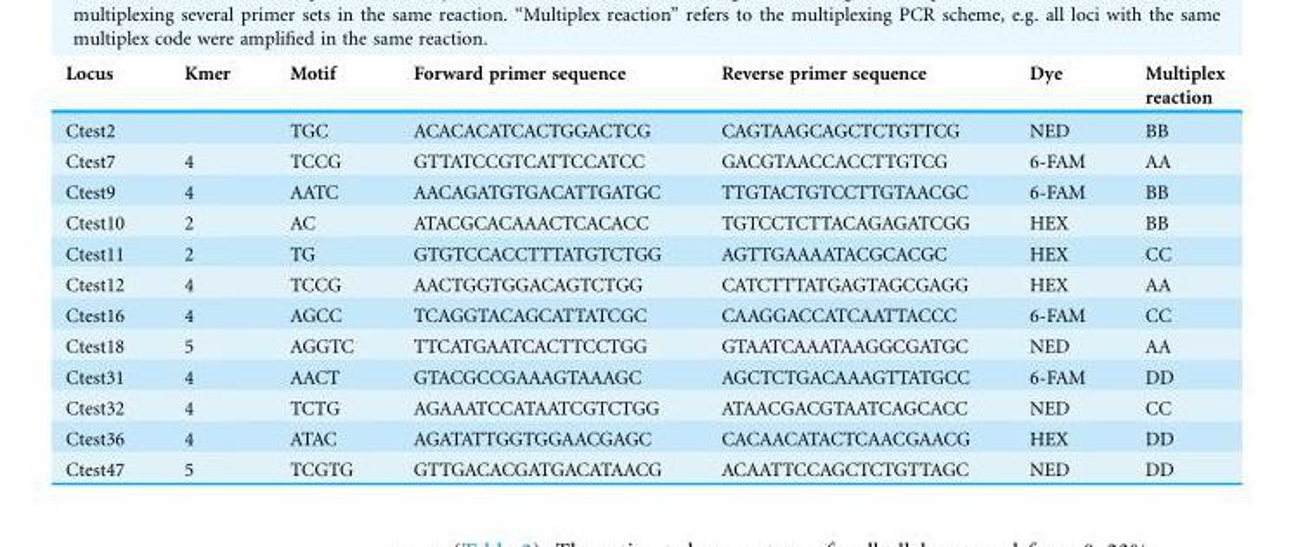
<table><thead><tr><td>Locus</td><td>Kmer</td><td>Motif</td><td>Forward primer sequence</td><td>Reverse primer sequence</td><td>Dye</td><td>Multiplex reaction</td></tr></thead><tbody><tr><td>Ctest2</td><td></td><td>TGC</td><td>ACACACATCACTGGACTCG</td><td>CAGTAAGCAGCTCTGTTCG</td><td>NED</td><td>BB</td></tr><tr><td>Ctest7</td><td>4</td><td>TCCG</td><td>GTTATCCGTCATTCCATCC</td><td>GACGTAACCACCTTGTCG</td><td>6-FAM</td><td>AA</td></tr><tr><td>Ctest9</td><td>4</td><td>AATC</td><td>AACAGATGTGACATTGATGC</td><td>TTGTACTGTCCTTGTAACGC</td><td>6-FAM</td><td>BB</td></tr><tr><td>Ctest10</td><td>2</td><td>AC</td><td>ATACGCACAAACTCACACC</td><td>TGTCCTCTTACAGAGATCGG</td><td>HEX</td><td>BB</td></tr><tr><td>Ctest11</td><td>2</td><td>TG</td><td>GTGTCCACCTTTATGTCTGG</td><td>AGTTGAAAATACGCACGC</td><td>HEX</td><td>CC</td></tr><tr><td>Ctest12</td><td>4</td><td>TCCG</td><td>AACTGGTGGACAGTCTGG</td><td>CATCTTTATGAGTAGCGAGG</td><td>HEX</td><td>AA</td></tr><tr><td>Ctest16</td><td>4</td><td>AGCC</td><td>TCAGGTACAGCATTATCGC</td><td>CAAGGACCATCAATTACCC</td><td>6-FAM</td><td>CC</td></tr><tr><td>Ctest18</td><td>5</td><td>AGGTC</td><td>TTCATGAATCACTTCCTGG</td><td>GTAATCAAATAAGGCGATGC</td><td>NED</td><td>AA</td></tr><tr><td>Ctest31</td><td>4</td><td>AACT</td><td>GTACGCCGAAAGTAAAGC</td><td>AGCTCTGACAAAGTTATGCC</td><td>6-FAM</td><td>DD</td></tr><tr><td>Ctest32</td><td>4</td><td>TCTG</td><td>AGAAATCCATAATCGTCTGG</td><td>ATAACGACGTAATCAGCACC</td><td>NED</td><td>CC</td></tr><tr><td>Ctest36</td><td>4</td><td>ATAC</td><td>AGATATTGGTGGAACGAGC</td><td>CACAACATACTCAACGAACG</td><td>HEX</td><td>DD</td></tr><tr><td>Ctest47</td><td>5</td><td>TCGTG</td><td>GTTGACACGATGACATAACG</td><td>ACAATTCCAGCTCTGTTAGC</td><td>NED</td><td>DD</td></tr></tbody></table>